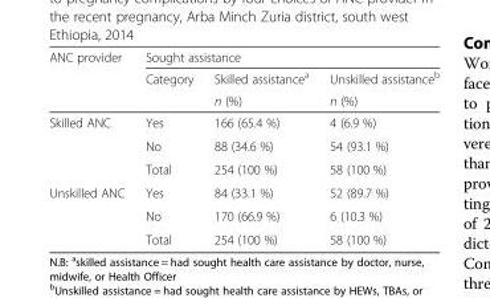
<table><thead><tr><td rowspan="3">ANC provider</td><td colspan="3">Sought assistance</td></tr><tr><td rowspan="2">Category</td><td rowspan="2">Skilled assistance<sup>a</sup> n (%)</td><td rowspan="2">Unskilled assistance<sup>b</sup> n (%)</td></tr><tr></tr></thead><tbody><tr><td rowspan="3">Skilled ANC</td><td>Yes</td><td>166 (65.4 %)</td><td>4 (6.9 %)</td></tr><tr><td>No</td><td>88 (34.6 %)</td><td>54 (93.1 %)</td></tr><tr><td>Total</td><td>254 (100 %)</td><td>58 (100 %)</td></tr><tr><td rowspan="3">Unskilled ANC</td><td>Yes</td><td>84 (33.1 %)</td><td>52 (89.7 %)</td></tr><tr><td>No</td><td>170 (66.9 %)</td><td>6 (10.3 %)</td></tr><tr><td>Total</td><td>254 (100 %)</td><td>58 (100 %)</td></tr></tbody></table>